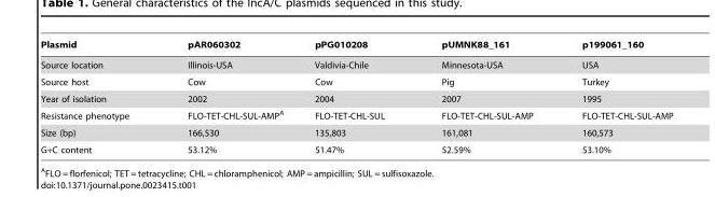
<table><thead><tr><td>Plasmid</td><td>pAR060302</td><td>pPG010208</td><td>pUMNK88_161</td><td>p199061_160</td></tr></thead><tbody><tr><td>Source location</td><td>Illinois-USA</td><td>Valdivia-Chile</td><td>Minnesota-USA</td><td>USA</td></tr><tr><td>Source host</td><td>Cow</td><td>Cow</td><td>Pig</td><td>Turkey</td></tr><tr><td>Year of isolation</td><td>2002</td><td>2004</td><td>2007</td><td>1995</td></tr><tr><td>Resistance phenotype</td><td>FLO-TET-CHL-SUL-AMP<sup>A</sup></td><td>FLO-TET-CHL-SUL</td><td>FLO-TET-CHL-SUL-AMP</td><td>FLO-TET-CHL-SUL-AMP</td></tr><tr><td>Size (bp)</td><td>166,530</td><td>135,803</td><td>161,081</td><td>160,573</td></tr><tr><td>G+C content</td><td>53.12%</td><td>51.47%</td><td>52.59%</td><td>53.10%</td></tr></tbody></table>